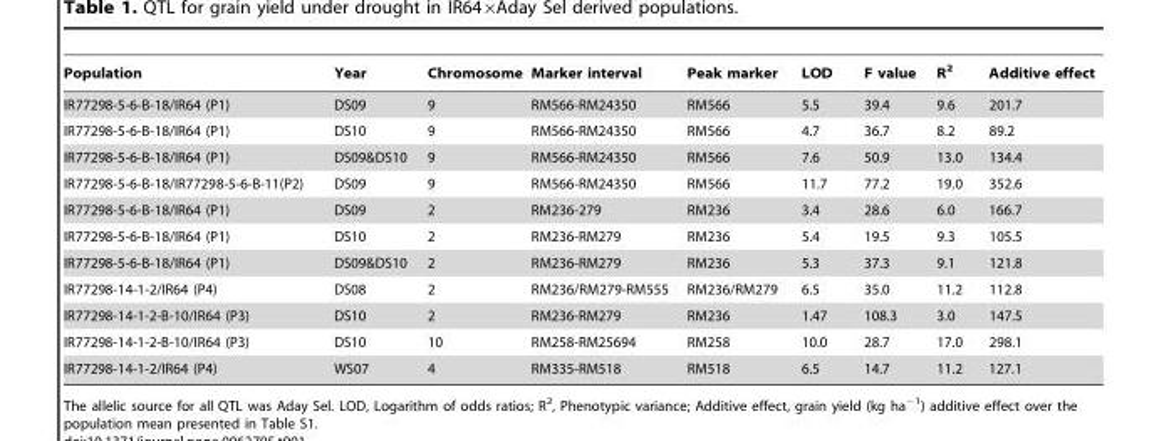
<table><thead><tr><td>Population</td><td>Year</td><td>Chromosome</td><td>Marker interval</td><td>Peak marker</td><td>LOD</td><td>F value</td><td>R<sup>2</sup></td><td>Additive effect</td></tr></thead><tbody><tr><td>IR77298-5-6-B-18/IR64 (P1)</td><td>DS09</td><td>9</td><td>RM566-RM24350</td><td>RM566</td><td>5.5</td><td>39.4</td><td>9.6</td><td>201.7</td></tr><tr><td>IR77298-5-6-B-18/IR64 (P1)</td><td>DS10</td><td>9</td><td>RM566-RM24350</td><td>RM566</td><td>4.7</td><td>36.7</td><td>8.2</td><td>89.2</td></tr><tr><td>IR77298-5-6-B-18/IR64 (P1)</td><td>DS09&amp;DS10</td><td>9</td><td>RM566-RM24350</td><td>RM566</td><td>7.6</td><td>50.9</td><td>13.0</td><td>134.4</td></tr><tr><td>IR77298-5-6-B-18/IR77298-5-6-B-11(P2)</td><td>DS09</td><td>9</td><td>RM566-RM24350</td><td>RM566</td><td>11.7</td><td>77.2</td><td>19.0</td><td>352.6</td></tr><tr><td>IR77298-5-6-B-18/IR64 (P1)</td><td>DS09</td><td>2</td><td>RM236-279</td><td>RM236</td><td>3.4</td><td>28.6</td><td>6.0</td><td>166.7</td></tr><tr><td>IR77298-5-6-B-18/IR64 (P1)</td><td>DS10</td><td>2</td><td>RM236-RM279</td><td>RM236</td><td>5.4</td><td>19.5</td><td>9.3</td><td>105.5</td></tr><tr><td>IR77298-5-6-B-18/IR64 (P1)</td><td>DS09&amp;DS10</td><td>2</td><td>RM236-RM279</td><td>RM236</td><td>5.3</td><td>37.3</td><td>9.1</td><td>121.8</td></tr><tr><td>IR77298-14-1-2/IR64 (P4)</td><td>DS08</td><td>2</td><td>RM236/RM279-RM555</td><td>RM236/RM279</td><td>6.5</td><td>35.0</td><td>11.2</td><td>112.8</td></tr><tr><td>IR77298-14-1-2-B-10/IR64 (P3)</td><td>DS10</td><td>2</td><td>RM236-RM279</td><td>RM236</td><td>1.47</td><td>108.3</td><td>3.0</td><td>147.5</td></tr><tr><td>IR77298-14-1-2-B-10/IR64 (P3)</td><td>DS10</td><td>10</td><td>RM258-RM25694</td><td>RM258</td><td>10.0</td><td>28.7</td><td>17.0</td><td>298.1</td></tr><tr><td>IR77298-14-1-2/IR64 (P4)</td><td>WS07</td><td>4</td><td>RM335-RM518</td><td>RM518</td><td>6.5</td><td>14.7</td><td>11.2</td><td>127.1</td></tr></tbody></table>